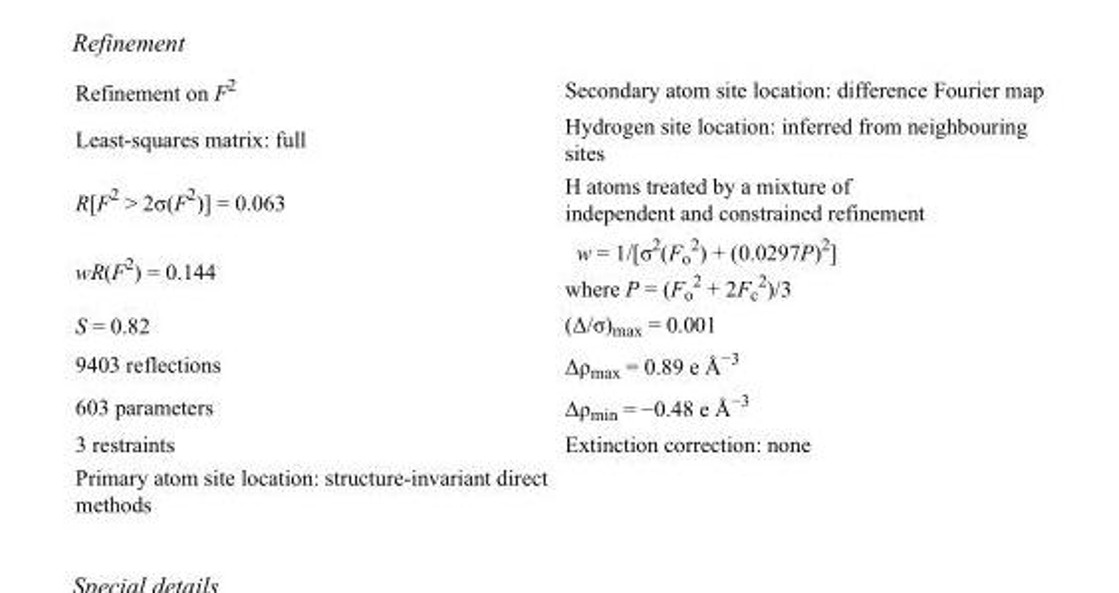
<table><tbody><tr><td>Refinement on F<sup>2</sup></td><td>Secondary atom site location: difference Fourier map</td></tr><tr><td>Least-squares matrix: full</td><td>Hydrogen site location: inferred from neighbouring sites</td></tr><tr><td>R[F<sup>2</sup> &gt; 2σ(F<sup>2</sup>)] = 0.063</td><td>H atoms treated by a mixture of independent and constrained refinement</td></tr><tr><td>wR(F<sup>2</sup>) = 0.144</td><td>w = 1/[σ<sup>2</sup>(F<sub>o</sub> <sup>2</sup>) + (0.0297P)<sup>2</sup>] where P = (F<sub>o</sub> <sup>2</sup> + 2F<sub>c</sub> <sup>2</sup>)/3</td></tr><tr><td>S = 0.82</td><td>(Δ/σ)<sub>max</sub> = 0.001</td></tr><tr><td>9403 reflections</td><td>Δρ<sub>max</sub> = 0.89 e Å<sup>−3</sup></td></tr><tr><td>603 parameters</td><td>Δρ<sub>min</sub> = −0.48 e Å<sup>−3</sup></td></tr><tr><td>3 restraints</td><td>Extinction correction: none</td></tr><tr><td>Primary atom site location: structure-invariant direct methods</td><td></td></tr></tbody></table>